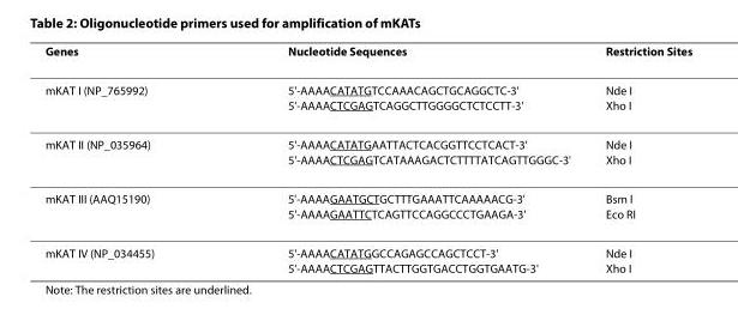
<table><thead><tr><td>Genes</td><td>Nucleotide Sequences</td><td>Restriction Sites</td></tr></thead><tbody><tr><td>mKAT I (NP_765992)</td><td>5&#x27;-AAAACATATGTCCAAACAGCTGCAGGCTC-3&#x27; 5&#x27;-AAAACTCGAGTCAGGCTTGGGGCTCTCCTT-3&#x27;</td><td>Nde I Xho I</td></tr><tr><td>mKAT II (NP_035964)</td><td>5&#x27;-AAAACATATGAATTACTCACGGTTCCTCACT-3&#x27; 5&#x27;-AAAACTCGAGTCATAAAGACTCTTTTATCAGTTGGGC-3&#x27;</td><td>Nde I Xho I</td></tr><tr><td>mKAT III (AAQ15190)</td><td>5&#x27;-AAAAGAATGCTGCTTTGAAATTCAAAAACG-3&#x27; 5&#x27;-AAAAGAATTCTCAGTTCCAGGCCCTGAAGA-3&#x27;</td><td>Bsm I Eco RI</td></tr><tr><td>mKAT IV (NP_034455)</td><td>5&#x27;-AAAACATATGGCCAGAGCCAGCTCCT-3&#x27; 5&#x27;-AAAACTCGAGTTACTTGGTGACCTGGTGAATG-3&#x27;</td><td>Nde I Xho I</td></tr></tbody></table>